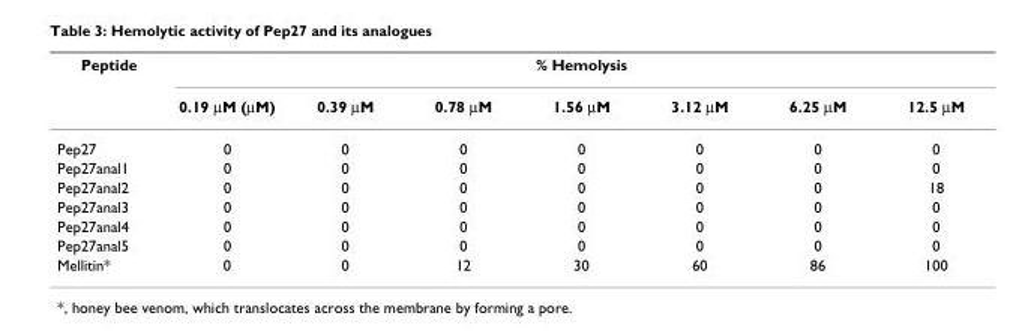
<table><thead><tr><td rowspan="2">Peptide</td><td colspan="7">% Hemolysis</td></tr><tr><td>0.19 µM (µM)</td><td>0.39 µM</td><td>0.78 µM</td><td>1.56 µM</td><td>3.12 µM</td><td>6.25 µM</td><td>12.5 µM</td></tr></thead><tbody><tr><td>Pep27</td><td>0</td><td>0</td><td>0</td><td>0</td><td>0</td><td>0</td><td>0</td></tr><tr><td>Pep27anal1</td><td>0</td><td>0</td><td>0</td><td>0</td><td>0</td><td>0</td><td>0</td></tr><tr><td>Pep27anal2</td><td>0</td><td>0</td><td>0</td><td>0</td><td>0</td><td>0</td><td>18</td></tr><tr><td>Pep27anal3</td><td>0</td><td>0</td><td>0</td><td>0</td><td>0</td><td>0</td><td>0</td></tr><tr><td>Pep27anal4</td><td>0</td><td>0</td><td>0</td><td>0</td><td>0</td><td>0</td><td>0</td></tr><tr><td>Pep27anal5</td><td>0</td><td>0</td><td>0</td><td>0</td><td>0</td><td>0</td><td>0</td></tr><tr><td>Mellitin*</td><td>0</td><td>0</td><td>12</td><td>30</td><td>60</td><td>86</td><td>100</td></tr></tbody></table>